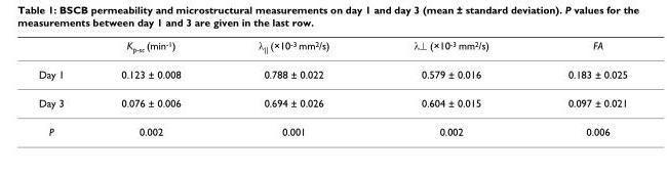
<table><thead><tr><td></td><td>K<sub>p-sc</sub> (min<sup>-1</sup>)</td><td>λ<sub>||</sub> (×10<sup>-3</sup> mm<sup>2</sup>/s)</td><td>λ⊥ (×10<sup>-3</sup> mm<sup>2</sup>/s)</td><td>FA</td></tr></thead><tbody><tr><td>Day 1</td><td>0.123 ± 0.008</td><td>0.788 ± 0.022</td><td>0.579 ± 0.016</td><td>0.183 ± 0.025</td></tr><tr><td>Day 3</td><td>0.076 ± 0.006</td><td>0.694 ± 0.026</td><td>0.604 ± 0.015</td><td>0.097 ± 0.021</td></tr><tr><td>P</td><td>0.002</td><td>0.001</td><td>0.002</td><td>0.006</td></tr></tbody></table>